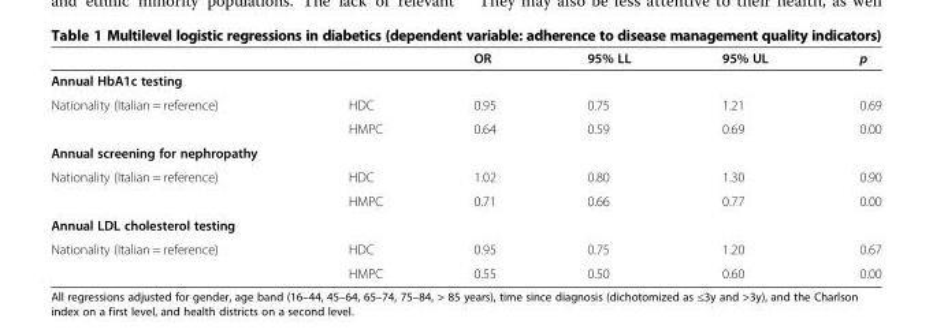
<table><thead><tr><td></td><td></td><td>OR</td><td>95% LL</td><td>95% UL</td><td>p</td></tr></thead><tbody><tr><td colspan="6">Annual HbA1c testing</td></tr><tr><td rowspan="2">Nationality (Italian = reference)</td><td>HDC</td><td>0.95</td><td>0.75</td><td>1.21</td><td>0.69</td></tr><tr><td>HMPC</td><td>0.64</td><td>0.59</td><td>0.69</td><td>0.00</td></tr><tr><td colspan="6">Annual screening for nephropathy</td></tr><tr><td rowspan="2">Nationality (Italian = reference)</td><td>HDC</td><td>1.02</td><td>0.80</td><td>1.30</td><td>0.90</td></tr><tr><td>HMPC</td><td>0.71</td><td>0.66</td><td>0.77</td><td>0.00</td></tr><tr><td colspan="6">Annual LDL cholesterol testing</td></tr><tr><td rowspan="2">Nationality (Italian = reference)</td><td>HDC</td><td>0.95</td><td>0.75</td><td>1.20</td><td>0.67</td></tr><tr><td>HMPC</td><td>0.55</td><td>0.50</td><td>0.60</td><td>0.00</td></tr></tbody></table>